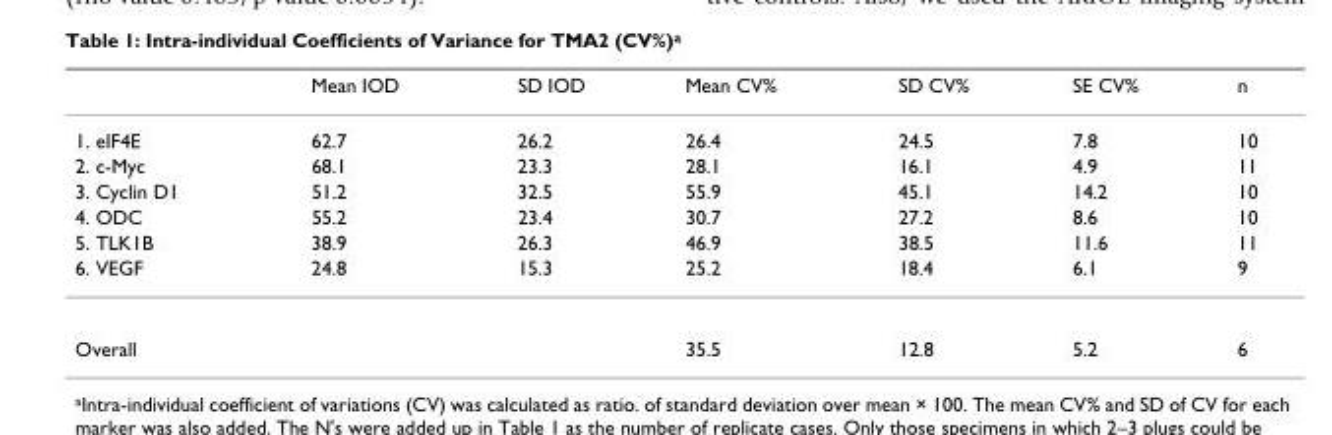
<table><thead><tr><td></td><td>Mean IOD</td><td>SD IOD</td><td>Mean CV%</td><td>SD CV%</td><td>SE CV%</td><td>n</td></tr></thead><tbody><tr><td>1. eIF4E</td><td>62.7</td><td>26.2</td><td>26.4</td><td>24.5</td><td>7.8</td><td>10</td></tr><tr><td>2. c-Myc</td><td>68.1</td><td>23.3</td><td>28.1</td><td>16.1</td><td>4.9</td><td>11</td></tr><tr><td>3. Cyclin D1</td><td>51.2</td><td>32.5</td><td>55.9</td><td>45.1</td><td>14.2</td><td>10</td></tr><tr><td>4. ODC</td><td>55.2</td><td>23.4</td><td>30.7</td><td>27.2</td><td>8.6</td><td>10</td></tr><tr><td>5. TLK1B</td><td>38.9</td><td>26.3</td><td>46.9</td><td>38.5</td><td>11.6</td><td>11</td></tr><tr><td>6. VEGF</td><td>24.8</td><td>15.3</td><td>25.2</td><td>18.4</td><td>6.1</td><td>9</td></tr><tr><td>Overall</td><td></td><td></td><td>35.5</td><td>12.8</td><td>5.2</td><td>6</td></tr></tbody></table>